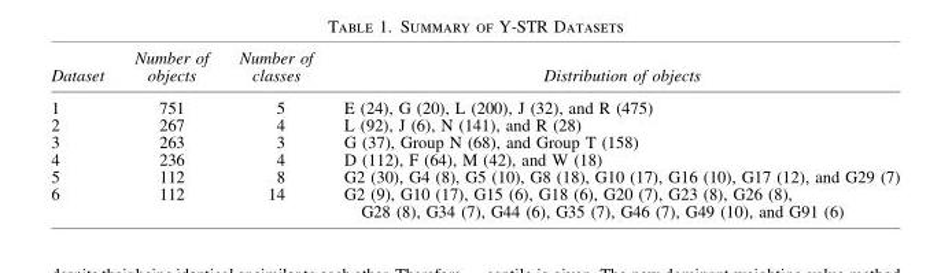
<table><thead><tr><td>Dataset</td><td>Number of objects</td><td>Number of classes</td><td>Distribution of objects</td></tr></thead><tbody><tr><td>1</td><td>751</td><td>5</td><td>E (24), G (20), L (200), J (32), and R (475)</td></tr><tr><td>2</td><td>267</td><td>4</td><td>L (92), J (6), N (141), and R (28)</td></tr><tr><td>3</td><td>263</td><td>3</td><td>G (37), Group N (68), and Group T (158)</td></tr><tr><td>4</td><td>236</td><td>4</td><td>D (112), F (64), M (42), and W (18)</td></tr><tr><td>5</td><td>112</td><td>8</td><td>G2 (30), G4 (8), G5 (10), G8 (18), G10 (17), G16 (10), G17 (12), and G29 (7)</td></tr><tr><td>6</td><td>112</td><td>14</td><td>G2 (9), G10 (17), G15 (6), G18 (6), G20 (7), G23 (8), G26 (8), G28 (8), G34 (7), G44 (6), G35 (7), G46 (7), G49 (10), and G91 (6)</td></tr></tbody></table>